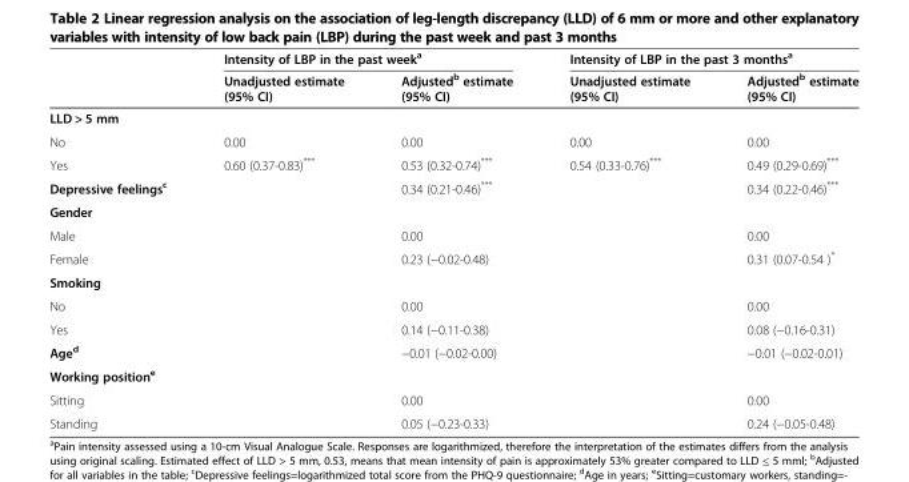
<table><thead><tr><td rowspan="2"></td><td colspan="2">Intensity of LBP in the past week<sup>a</sup></td><td colspan="2">Intensity of LBP in the past 3 months<sup>a</sup></td></tr><tr><td>Unadjusted estimate (95% CI)</td><td>Adjusted<sup>b</sup> estimate (95% CI)</td><td>Unadjusted estimate (95% CI)</td><td>Adjusted<sup>b</sup> estimate (95% CI)</td></tr></thead><tbody><tr><td colspan="5">LLD &gt; 5 mm</td></tr><tr><td>No</td><td>0.00</td><td>0.00</td><td>0.00</td><td>0.00</td></tr><tr><td>Yes</td><td>0.60 (0.37-0.83)***</td><td>0.53 (0.32-0.74)***</td><td>0.54 (0.33-0.76)***</td><td>0.49 (0.29-0.69)***</td></tr><tr><td>Depressive feelings<sup>c</sup></td><td></td><td>0.34 (0.21-0.46)***</td><td></td><td>0.34 (0.22-0.46)***</td></tr><tr><td colspan="5">Gender</td></tr><tr><td>Male</td><td></td><td>0.00</td><td></td><td>0.00</td></tr><tr><td>Female</td><td></td><td>0.23 (−0.02-0.48)</td><td></td><td>0.31 (0.07-0.54 )*</td></tr><tr><td colspan="5">Smoking</td></tr><tr><td>No</td><td></td><td>0.00</td><td></td><td>0.00</td></tr><tr><td>Yes</td><td></td><td>0.14 (−0.11-0.38)</td><td></td><td>0.08 (−0.16-0.31)</td></tr><tr><td>Age<sup>d</sup></td><td></td><td>−0.01 (−0.02-0.00)</td><td></td><td>−0.01 (−0.02-0.01)</td></tr><tr><td colspan="5">Working position<sup>e</sup></td></tr><tr><td>Sitting</td><td></td><td>0.00</td><td></td><td>0.00</td></tr><tr><td>Standing</td><td></td><td>0.05 (−0.23-0.33)</td><td></td><td>0.24 (−0.05-0.48)</td></tr></tbody></table>